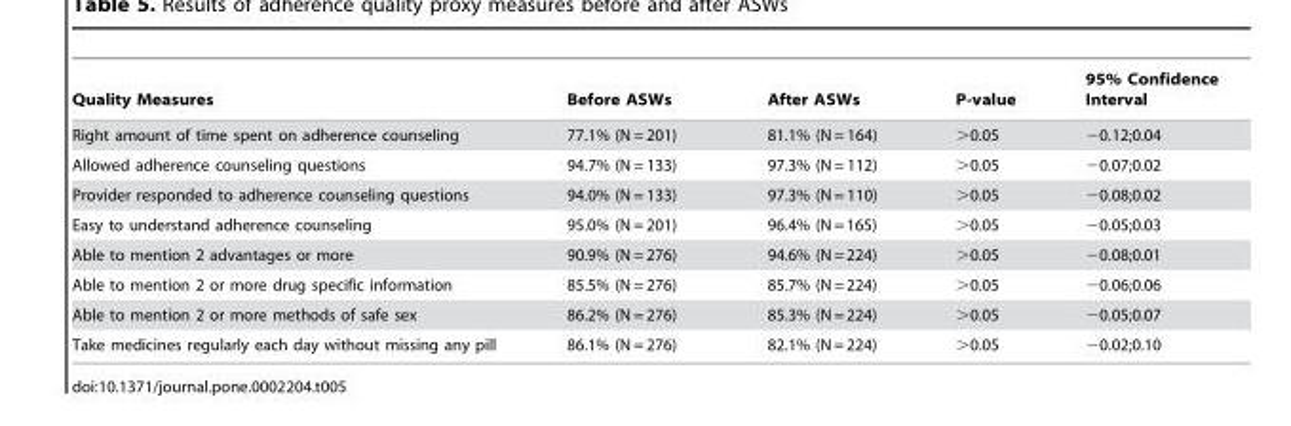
<table><thead><tr><td>Quality Measures</td><td>Before ASWs</td><td>After ASWs</td><td>P-value</td><td>95% Confidence Interval</td></tr></thead><tbody><tr><td>Right amount of time spent on adherence counseling</td><td>77.1% (N = 201)</td><td>81.1% (N = 164)</td><td>&gt;0.05</td><td>−0.12;0.04</td></tr><tr><td>Allowed adherence counseling questions</td><td>94.7% (N = 133)</td><td>97.3% (N = 112)</td><td>&gt;0.05</td><td>−0.07;0.02</td></tr><tr><td>Provider responded to adherence counseling questions</td><td>94.0% (N = 133)</td><td>97.3% (N = 110)</td><td>&gt;0.05</td><td>−0.08;0.02</td></tr><tr><td>Easy to understand adherence counseling</td><td>95.0% (N = 201)</td><td>96.4% (N = 165)</td><td>&gt;0.05</td><td>−0.05;0.03</td></tr><tr><td>Able to mention 2 advantages or more</td><td>90.9% (N = 276)</td><td>94.6% (N = 224)</td><td>&gt;0.05</td><td>−0.08;0.01</td></tr><tr><td>Able to mention 2 or more drug specific information</td><td>85.5% (N = 276)</td><td>85.7% (N = 224)</td><td>&gt;0.05</td><td>−0.06;0.06</td></tr><tr><td>Able to mention 2 or more methods of safe sex</td><td>86.2% (N = 276)</td><td>85.3% (N = 224)</td><td>&gt;0.05</td><td>−0.05;0.07</td></tr><tr><td>Take medicines regularly each day without missing any pill</td><td>86.1% (N = 276)</td><td>82.1% (N = 224)</td><td>&gt;0.05</td><td>−0.02;0.10</td></tr></tbody></table>